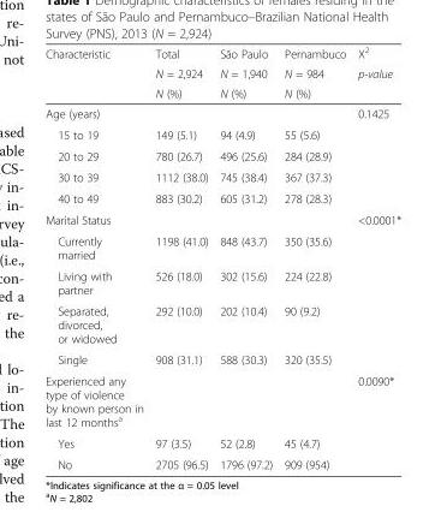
<table><thead><tr><td rowspan="3">Characteristic</td><td rowspan="3">Total N = 2,924 N (%)</td><td rowspan="3">São Paulo N = 1,940 N (%)</td><td rowspan="3">Pernambuco N = 984 N (%)</td><td rowspan="3">X<sup>2</sup> p-value</td></tr><tr></tr><tr></tr></thead><tbody><tr><td>Age (years)</td><td></td><td></td><td></td><td>0.1425</td></tr><tr><td>15 to 19</td><td>149 (5.1)</td><td>94 (4.9)</td><td>55 (5.6)</td><td></td></tr><tr><td>20 to 29</td><td>780 (26.7)</td><td>496 (25.6)</td><td>284 (28.9)</td><td></td></tr><tr><td>30 to 39</td><td>1112 (38.0)</td><td>745 (38.4)</td><td>367 (37.3)</td><td></td></tr><tr><td>40 to 49</td><td>883 (30.2)</td><td>605 (31.2)</td><td>278 (28.3)</td><td></td></tr><tr><td>Marital Status</td><td></td><td></td><td></td><td>&lt;0.0001*</td></tr><tr><td>Currently married</td><td>1198 (41.0)</td><td>848 (43.7)</td><td>350 (35.6)</td><td></td></tr><tr><td>Living with partner</td><td>526 (18.0)</td><td>302 (15.6)</td><td>224 (22.8)</td><td></td></tr><tr><td>Separated, divorced, or widowed</td><td>292 (10.0)</td><td>202 (10.4)</td><td>90 (9.2)</td><td></td></tr><tr><td>Single</td><td>908 (31.1)</td><td>588 (30.3)</td><td>320 (35.5)</td><td></td></tr><tr><td>Experienced any type of violence by known person in last 12 months<sup>a</sup></td><td></td><td></td><td></td><td>0.0090*</td></tr><tr><td>Yes</td><td>97 (3.5)</td><td>52 (2.8)</td><td>45 (4.7)</td><td></td></tr><tr><td>No</td><td>2705 (96.5)</td><td>1796 (97.2)</td><td>909 (954)</td><td></td></tr></tbody></table>